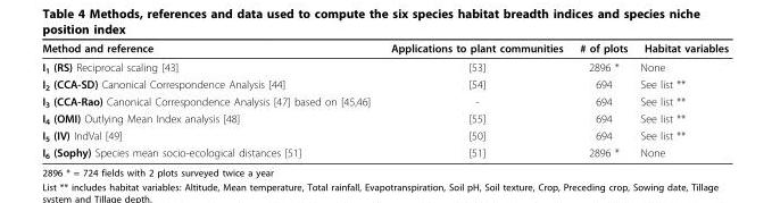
<table><thead><tr><td>Method and reference</td><td>Applications to plant communities</td><td># of plots</td><td>Habitat variables</td></tr></thead><tbody><tr><td>I<sub>1</sub> (RS) Reciprocal scaling [43]</td><td>[53]</td><td>2896 *</td><td>None</td></tr><tr><td>I<sub>2</sub> (CCA-SD) Canonical Correspondence Analysis [44]</td><td>[54]</td><td>694</td><td>See list **</td></tr><tr><td>I<sub>3</sub> (CCA-Rao) Canonical Correspondence Analysis [47] based on [45,46]</td><td>-</td><td>694</td><td>See list **</td></tr><tr><td>I<sub>4</sub> (OMI) Outlying Mean Index analysis [48]</td><td>[55]</td><td>694</td><td>See list **</td></tr><tr><td>I<sub>5</sub> (IV) IndVal [49]</td><td>[50]</td><td>694</td><td>See list **</td></tr><tr><td>I<sub>6</sub> (Sophy) Species mean socio-ecological distances [51]</td><td>[51]</td><td>2896 *</td><td>None</td></tr></tbody></table>